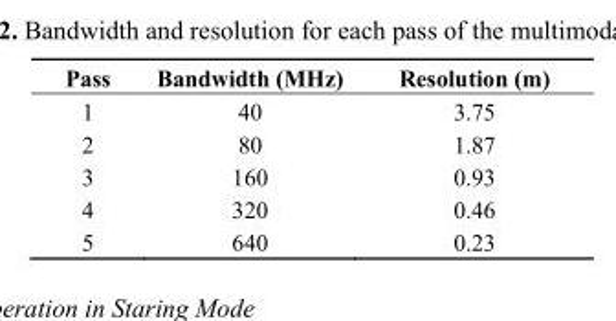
<table><thead><tr><td>Pass</td><td>Bandwidth (MHz)</td><td>Resolution (m)</td></tr></thead><tbody><tr><td>1</td><td>40</td><td>3.75</td></tr><tr><td>2</td><td>80</td><td>1.87</td></tr><tr><td>3</td><td>160</td><td>0.93</td></tr><tr><td>4</td><td>320</td><td>0.46</td></tr><tr><td>5</td><td>640</td><td>0.23</td></tr></tbody></table>